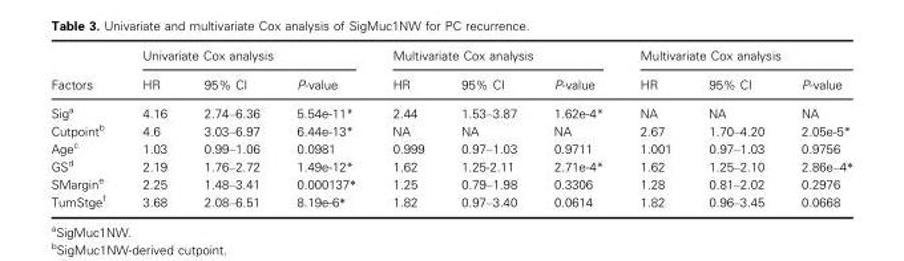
<table><thead><tr><td rowspan="2">Factors</td><td colspan="3">Univariate Cox analysis</td><td colspan="3">Multivariate Cox analysis</td><td colspan="3">Multivariate Cox analysis</td></tr><tr><td>HR</td><td>95% CI</td><td>P-value</td><td>HR</td><td>95% CI</td><td>P-value</td><td>HR</td><td>95% CI</td><td>P-value</td></tr></thead><tbody><tr><td>Sig<sup>a</sup></td><td>4.16</td><td>2.74–6.36</td><td>5.54e-11*</td><td>2.44</td><td>1.53–3.87</td><td>1.62e-4*</td><td>NA</td><td>NA</td><td>NA</td></tr><tr><td>Cutpoint<sup>b</sup></td><td>4.6</td><td>3.03–6.97</td><td>6.44e-13*</td><td>NA</td><td>NA</td><td>NA</td><td>2.67</td><td>1.70–4.20</td><td>2.05e-5*</td></tr><tr><td>Age<sup>c</sup></td><td>1.03</td><td>0.99–1.06</td><td>0.0981</td><td>0.999</td><td>0.97–1.03</td><td>0.9711</td><td>1.001</td><td>0.97–1.03</td><td>0.9756</td></tr><tr><td>GS<sup>d</sup></td><td>2.19</td><td>1.76–2.72</td><td>1.49e-12*</td><td>1.62</td><td>1.25-2.11</td><td>2.71e-4*</td><td>1.62</td><td>1.25–2.10</td><td>2.86e–4*</td></tr><tr><td>SMargin<sup>e</sup></td><td>2.25</td><td>1.48–3.41</td><td>0.000137*</td><td>1.25</td><td>0.79–1.98</td><td>0.3306</td><td>1.28</td><td>0.81–2.02</td><td>0.2976</td></tr><tr><td>TumStge<sup>f</sup></td><td>3.68</td><td>2.08–6.51</td><td>8.19e-6*</td><td>1.82</td><td>0.97–3.40</td><td>0.0614</td><td>1.82</td><td>0.96–3.45</td><td>0.0668</td></tr></tbody></table>